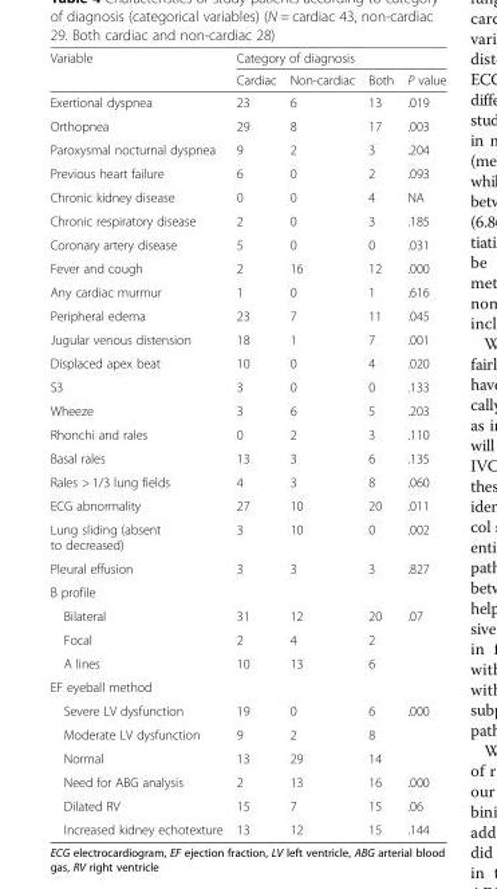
<table><thead><tr><td rowspan="2">Variable</td><td colspan="4">Category of diagnosis</td></tr><tr><td>Cardiac</td><td>Non-cardiac</td><td>Both</td><td>P value</td></tr></thead><tbody><tr><td>Exertional dyspnea</td><td>23</td><td>6</td><td>13</td><td>.019</td></tr><tr><td>Orthopnea</td><td>29</td><td>8</td><td>17</td><td>.003</td></tr><tr><td>Paroxysmal nocturnal dyspnea</td><td>9</td><td>2</td><td>3</td><td>.204</td></tr><tr><td>Previous heart failure</td><td>6</td><td>0</td><td>2</td><td>.093</td></tr><tr><td>Chronic kidney disease</td><td>0</td><td>0</td><td>4</td><td>NA</td></tr><tr><td>Chronic respiratory disease</td><td>2</td><td>0</td><td>3</td><td>.185</td></tr><tr><td>Coronary artery disease</td><td>5</td><td>0</td><td>0</td><td>.031</td></tr><tr><td>Fever and cough</td><td>2</td><td>16</td><td>12</td><td>.000</td></tr><tr><td>Any cardiac murmur</td><td>1</td><td>0</td><td>1</td><td>.616</td></tr><tr><td>Peripheral edema</td><td>23</td><td>7</td><td>11</td><td>.045</td></tr><tr><td>Jugular venous distension</td><td>18</td><td>1</td><td>7</td><td>.001</td></tr><tr><td>Displaced apex beat</td><td>10</td><td>0</td><td>4</td><td>.020</td></tr><tr><td>S3</td><td>3</td><td>0</td><td>0</td><td>.133</td></tr><tr><td>Wheeze</td><td>3</td><td>6</td><td>5</td><td>.203</td></tr><tr><td>Rhonchi and rales</td><td>0</td><td>2</td><td>3</td><td>.110</td></tr><tr><td>Basal rales</td><td>13</td><td>3</td><td>6</td><td>.135</td></tr><tr><td>Rales &gt; 1/3 lung fields</td><td>4</td><td>3</td><td>8</td><td>.060</td></tr><tr><td>ECG abnormality</td><td>27</td><td>10</td><td>20</td><td>.011</td></tr><tr><td>Lung sliding (absent to decreased)</td><td>3</td><td>10</td><td>0</td><td>.002</td></tr><tr><td>Pleural effusion</td><td>3</td><td>3</td><td>3</td><td>.827</td></tr><tr><td colspan="5">B profile</td></tr><tr><td>Bilateral</td><td>31</td><td>12</td><td>20</td><td>.07</td></tr><tr><td>Focal</td><td>2</td><td>4</td><td>2</td><td></td></tr><tr><td>A lines</td><td>10</td><td>13</td><td>6</td><td></td></tr><tr><td colspan="5">EF eyeball method</td></tr><tr><td>Severe LV dysfunction</td><td>19</td><td>0</td><td>6</td><td>.000</td></tr><tr><td>Moderate LV dysfunction</td><td>9</td><td>2</td><td>8</td><td></td></tr><tr><td>Normal</td><td>13</td><td>29</td><td>14</td><td></td></tr><tr><td>Need for ABG analysis</td><td>2</td><td>13</td><td>16</td><td>.000</td></tr><tr><td>Dilated RV</td><td>15</td><td>7</td><td>15</td><td>.06</td></tr><tr><td>Increased kidney echotexture</td><td>13</td><td>12</td><td>15</td><td>.144</td></tr></tbody></table>